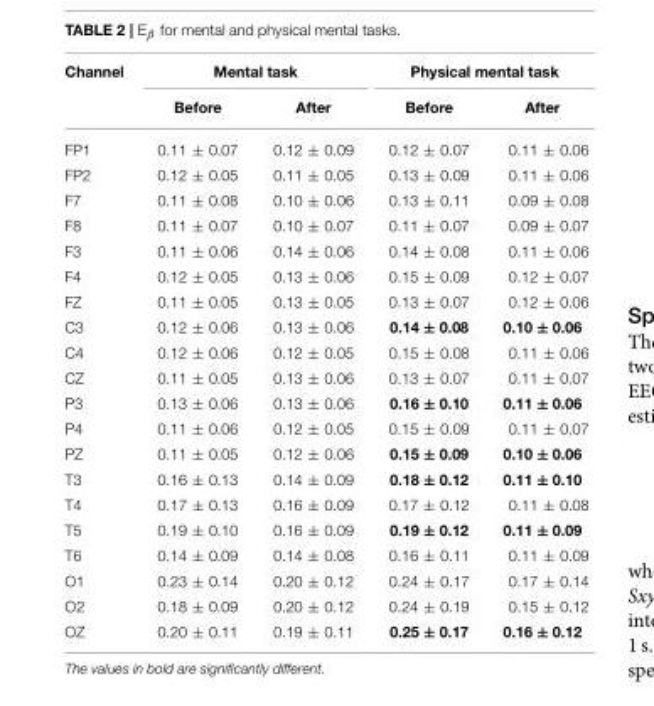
<table><thead><tr><td rowspan="2">Channel</td><td colspan="2">Mental task</td><td colspan="2">Physical mental task</td></tr><tr><td>Before</td><td>After</td><td>Before</td><td>After</td></tr></thead><tbody><tr><td>FP1</td><td>0.11 ± 0.07</td><td>0.12 ± 0.09</td><td>0.12 ± 0.07</td><td>0.11 ± 0.06</td></tr><tr><td>FP2</td><td>0.12 ± 0.05</td><td>0.11 ± 0.05</td><td>0.13 ± 0.09</td><td>0.11 ± 0.06</td></tr><tr><td>F7</td><td>0.11 ± 0.08</td><td>0.10 ± 0.06</td><td>0.13 ± 0.11</td><td>0.09 ± 0.08</td></tr><tr><td>F8</td><td>0.11 ± 0.07</td><td>0.10 ± 0.07</td><td>0.11 ± 0.07</td><td>0.09 ± 0.07</td></tr><tr><td>F3</td><td>0.11 ± 0.06</td><td>0.14 ± 0.06</td><td>0.14 ± 0.08</td><td>0.11 ± 0.06</td></tr><tr><td>F4</td><td>0.12 ± 0.05</td><td>0.13 ± 0.06</td><td>0.15 ± 0.09</td><td>0.12 ± 0.07</td></tr><tr><td>FZ</td><td>0.11 ± 0.05</td><td>0.13 ± 0.05</td><td>0.13 ± 0.07</td><td>0.12 ± 0.06</td></tr><tr><td>C3</td><td>0.12 ± 0.06</td><td>0.13 ± 0.06</td><td>0.14 ± 0.08</td><td>0.10 ± 0.06</td></tr><tr><td>C4</td><td>0.12 ± 0.06</td><td>0.12 ± 0.05</td><td>0.15 ± 0.08</td><td>0.11 ± 0.06</td></tr><tr><td>CZ</td><td>0.11 ± 0.05</td><td>0.13 ± 0.06</td><td>0.13 ± 0.07</td><td>0.11 ± 0.07</td></tr><tr><td>P3</td><td>0.13 ± 0.06</td><td>0.13 ± 0.06</td><td>0.16 ± 0.10</td><td>0.11 ± 0.06</td></tr><tr><td>P4</td><td>0.11 ± 0.06</td><td>0.12 ± 0.05</td><td>0.15 ± 0.09</td><td>0.11 ± 0.07</td></tr><tr><td>PZ</td><td>0.11 ± 0.05</td><td>0.12 ± 0.06</td><td>0.15 ± 0.09</td><td>0.10 ± 0.06</td></tr><tr><td>T3</td><td>0.16 ± 0.13</td><td>0.14 ± 0.09</td><td>0.18 ± 0.12</td><td>0.11 ± 0.10</td></tr><tr><td>T4</td><td>0.17 ± 0.13</td><td>0.16 ± 0.09</td><td>0.17 ± 0.12</td><td>0.11 ± 0.08</td></tr><tr><td>T5</td><td>0.19 ± 0.10</td><td>0.16 ± 0.09</td><td>0.19 ± 0.12</td><td>0.11 ± 0.09</td></tr><tr><td>T6</td><td>0.14 ± 0.09</td><td>0.14 ± 0.08</td><td>0.16 ± 0.11</td><td>0.11 ± 0.09</td></tr><tr><td>O1</td><td>0.23 ± 0.14</td><td>0.20 ± 0.12</td><td>0.24 ± 0.17</td><td>0.17 ± 0.14</td></tr><tr><td>O2</td><td>0.18 ± 0.09</td><td>0.20 ± 0.12</td><td>0.24 ± 0.19</td><td>0.15 ± 0.12</td></tr><tr><td>OZ</td><td>0.20 ± 0.11</td><td>0.19 ± 0.11</td><td>0.25 ± 0.17</td><td>0.16 ± 0.12</td></tr></tbody></table>